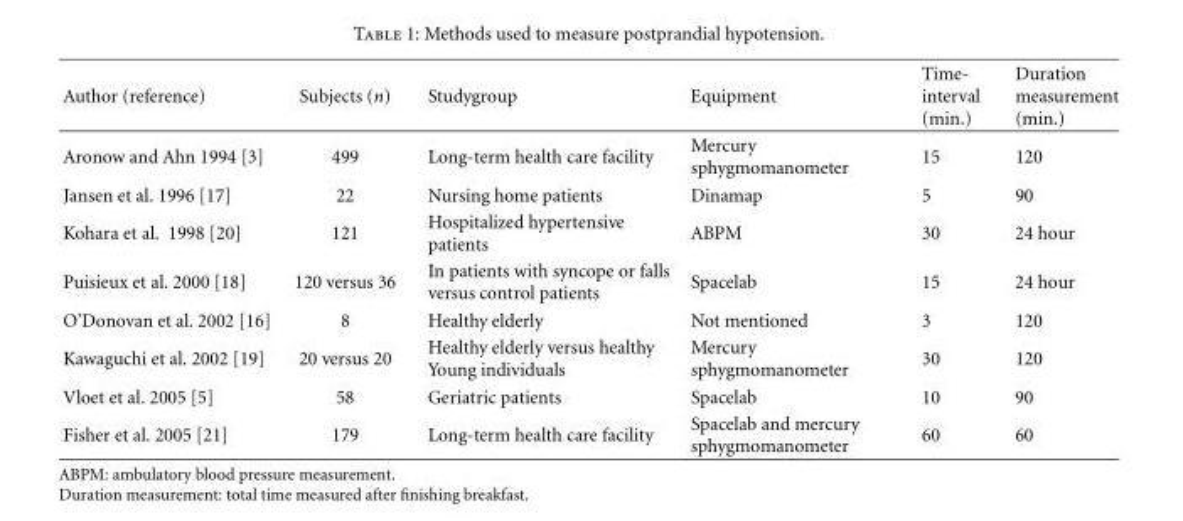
<table><thead><tr><td>Author (reference)</td><td>Subjects (n)</td><td>Studygroup</td><td>Equipment</td><td>Time- interval (min.)</td><td>Duration measurement (min.)</td></tr></thead><tbody><tr><td>Aronow and Ahn 1994 [3]</td><td>499</td><td>Long-term health care facility</td><td>Mercury sphygmomanometer</td><td>15</td><td>120</td></tr><tr><td>Jansen et al. 1996 [17]</td><td>22</td><td>Nursing home patients</td><td>Dinamap</td><td>5</td><td>90</td></tr><tr><td>Kohara et al. 1998 [20]</td><td>121</td><td>Hospitalized hypertensive patients</td><td>ABPM</td><td>30</td><td>24 hour</td></tr><tr><td>Puisieux et al. 2000 [18]</td><td>120 versus 36</td><td>In patients with syncope or falls versus control patients</td><td>Spacelab</td><td>15</td><td>24 hour</td></tr><tr><td>O’Donovan et al. 2002 [16]</td><td>8</td><td>Healthy elderly</td><td>Not mentioned</td><td>3</td><td>120</td></tr><tr><td>Kawaguchi et al. 2002 [19]</td><td>20 versus 20</td><td>Healthy elderly versus healthy Young individuals</td><td>Mercury sphygmomanometer</td><td>30</td><td>120</td></tr><tr><td>Vloet et al. 2005 [5]</td><td>58</td><td>Geriatric patients</td><td>Spacelab</td><td>10</td><td>90</td></tr><tr><td>Fisher et al. 2005 [21]</td><td>179</td><td>Long-term health care facility</td><td>Spacelab and mercury sphygmomanometer</td><td>60</td><td>60</td></tr></tbody></table>